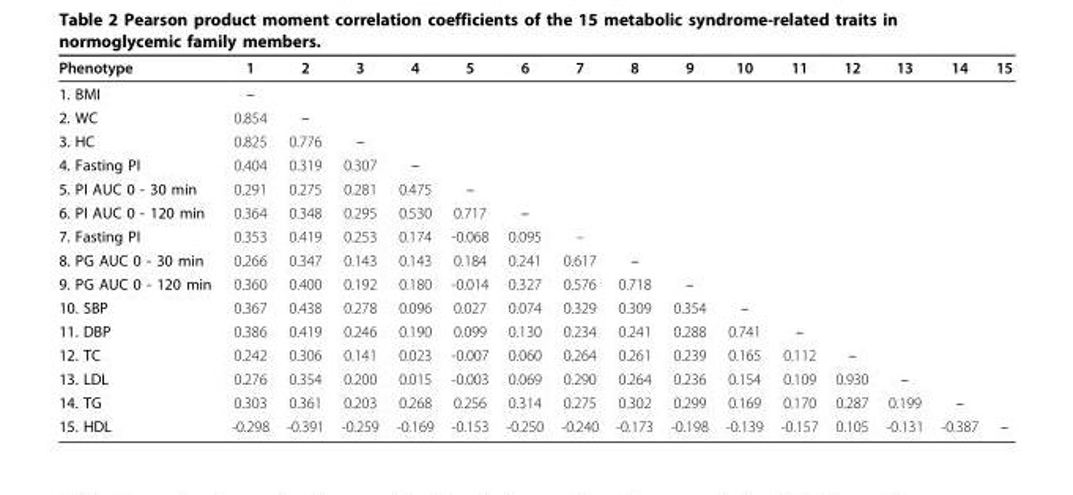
<table><thead><tr><td>Phenotype</td><td>1</td><td>2</td><td>3</td><td>4</td><td>5</td><td>6</td><td>7</td><td>8</td><td>9</td><td>10</td><td>11</td><td>12</td><td>13</td><td>14</td><td>15</td></tr></thead><tbody><tr><td>1. BMI</td><td>–</td><td></td><td></td><td></td><td></td><td></td><td></td><td></td><td></td><td></td><td></td><td></td><td></td><td></td><td></td></tr><tr><td>2. WC</td><td>0.854</td><td>–</td><td></td><td></td><td></td><td></td><td></td><td></td><td></td><td></td><td></td><td></td><td></td><td></td><td></td></tr><tr><td>3. HC</td><td>0.825</td><td>0.776</td><td>–</td><td></td><td></td><td></td><td></td><td></td><td></td><td></td><td></td><td></td><td></td><td></td><td></td></tr><tr><td>4. Fasting PI</td><td>0.404</td><td>0.319</td><td>0.307</td><td>–</td><td></td><td></td><td></td><td></td><td></td><td></td><td></td><td></td><td></td><td></td><td></td></tr><tr><td>5. PI AUC 0 - 30 min</td><td>0.291</td><td>0.275</td><td>0.281</td><td>0.475</td><td>–</td><td></td><td></td><td></td><td></td><td></td><td></td><td></td><td></td><td></td><td></td></tr><tr><td>6. PI AUC 0 - 120 min</td><td>0.364</td><td>0.348</td><td>0.295</td><td>0.530</td><td>0.717</td><td>–</td><td></td><td></td><td></td><td></td><td></td><td></td><td></td><td></td><td></td></tr><tr><td>7. Fasting PI</td><td>0.353</td><td>0.419</td><td>0.253</td><td>0.174</td><td>-0.068</td><td>0.095</td><td>–</td><td></td><td></td><td></td><td></td><td></td><td></td><td></td><td></td></tr><tr><td>8. PG AUC 0 - 30 min</td><td>0.266</td><td>0.347</td><td>0.143</td><td>0.143</td><td>0.184</td><td>0.241</td><td>0.617</td><td>–</td><td></td><td></td><td></td><td></td><td></td><td></td><td></td></tr><tr><td>9. PG AUC 0 - 120 min</td><td>0.360</td><td>0.400</td><td>0.192</td><td>0.180</td><td>-0.014</td><td>0.327</td><td>0.576</td><td>0.718</td><td>–</td><td></td><td></td><td></td><td></td><td></td><td></td></tr><tr><td>10. SBP</td><td>0.367</td><td>0.438</td><td>0.278</td><td>0.096</td><td>0.027</td><td>0.074</td><td>0.329</td><td>0.309</td><td>0.354</td><td>–</td><td></td><td></td><td></td><td></td><td></td></tr><tr><td>11. DBP</td><td>0.386</td><td>0.419</td><td>0.246</td><td>0.190</td><td>0.099</td><td>0.130</td><td>0.234</td><td>0.241</td><td>0.288</td><td>0.741</td><td>–</td><td></td><td></td><td></td><td></td></tr><tr><td>12. TC</td><td>0.242</td><td>0.306</td><td>0.141</td><td>0.023</td><td>-0.007</td><td>0.060</td><td>0.264</td><td>0.261</td><td>0.239</td><td>0.165</td><td>0.112</td><td>–</td><td></td><td></td><td></td></tr><tr><td>13. LDL</td><td>0.276</td><td>0.354</td><td>0.200</td><td>0.015</td><td>-0.003</td><td>0.069</td><td>0.290</td><td>0.264</td><td>0.236</td><td>0.154</td><td>0.109</td><td>0.930</td><td>–</td><td></td><td></td></tr><tr><td>14. TG</td><td>0.303</td><td>0.361</td><td>0.203</td><td>0.268</td><td>0.256</td><td>0.314</td><td>0.275</td><td>0.302</td><td>0.299</td><td>0.169</td><td>0.170</td><td>0.287</td><td>0.199</td><td>–</td><td></td></tr><tr><td>15. HDL</td><td>-0.298</td><td>-0.391</td><td>-0.259</td><td>-0.169</td><td>-0.153</td><td>-0.250</td><td>-0.240</td><td>-0.173</td><td>-0.198</td><td>-0.139</td><td>-0.157</td><td>0.105</td><td>-0.131</td><td>-0.387</td><td>–</td></tr></tbody></table>